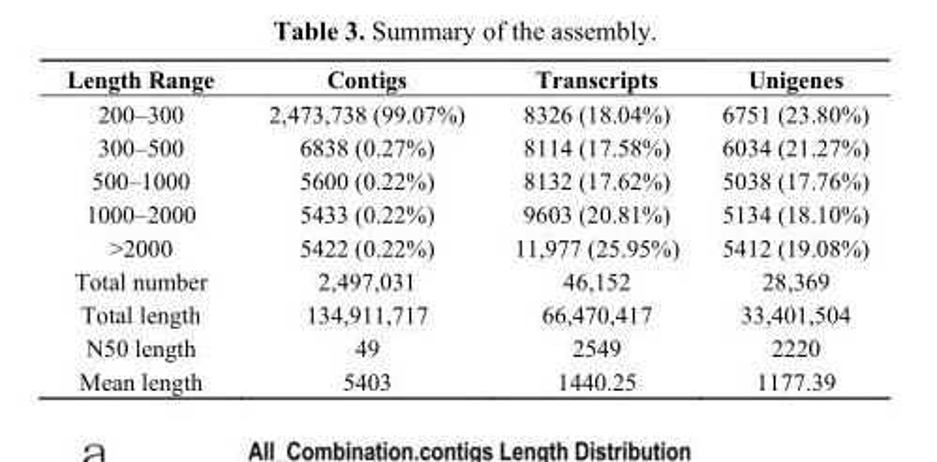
<table><thead><tr><td>Length Range</td><td>Contigs</td><td>Transcripts</td><td>Unigenes</td></tr></thead><tbody><tr><td>200–300</td><td>2,473,738 (99.07%)</td><td>8326 (18.04%)</td><td>6751 (23.80%)</td></tr><tr><td>300–500</td><td>6838 (0.27%)</td><td>8114 (17.58%)</td><td>6034 (21.27%)</td></tr><tr><td>500–1000</td><td>5600 (0.22%)</td><td>8132 (17.62%)</td><td>5038 (17.76%)</td></tr><tr><td>1000–2000</td><td>5433 (0.22%)</td><td>9603 (20.81%)</td><td>5134 (18.10%)</td></tr><tr><td>&gt;2000</td><td>5422 (0.22%)</td><td>11,977 (25.95%)</td><td>5412 (19.08%)</td></tr><tr><td>Total number</td><td>2,497,031</td><td>46,152</td><td>28,369</td></tr><tr><td>Total length</td><td>134,911,717</td><td>66,470,417</td><td>33,401,504</td></tr><tr><td>N50 length</td><td>49</td><td>2549</td><td>2220</td></tr><tr><td>Mean length</td><td>5403</td><td>1440.25</td><td>1177.39</td></tr></tbody></table>